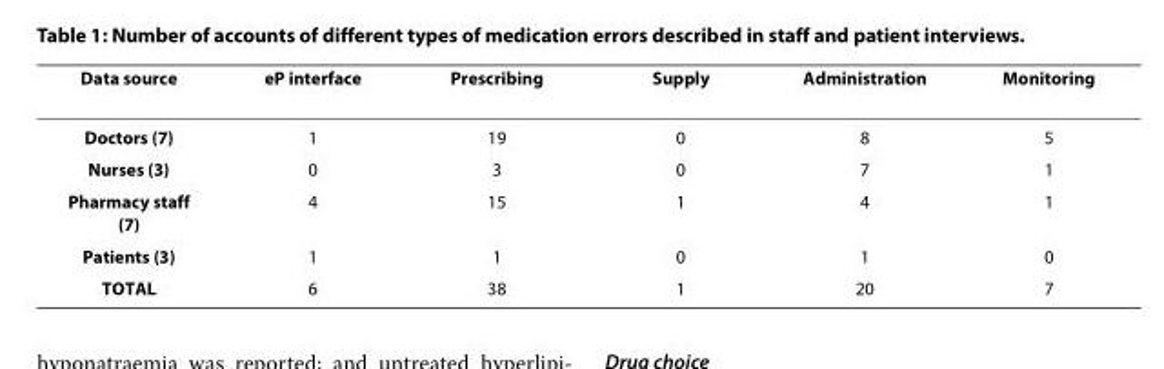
<table><thead><tr><td>Data source</td><td>eP interface</td><td>Prescribing</td><td>Supply</td><td>Administration</td><td>Monitoring</td></tr></thead><tbody><tr><td>Doctors (7)</td><td>1</td><td>19</td><td>0</td><td>8</td><td>5</td></tr><tr><td>Nurses (3)</td><td>0</td><td>3</td><td>0</td><td>7</td><td>1</td></tr><tr><td>Pharmacy staff (7)</td><td>4</td><td>15</td><td>1</td><td>4</td><td>1</td></tr><tr><td>Patients (3)</td><td>1</td><td>1</td><td>0</td><td>1</td><td>0</td></tr><tr><td>TOTAL</td><td>6</td><td>38</td><td>1</td><td>20</td><td>7</td></tr></tbody></table>